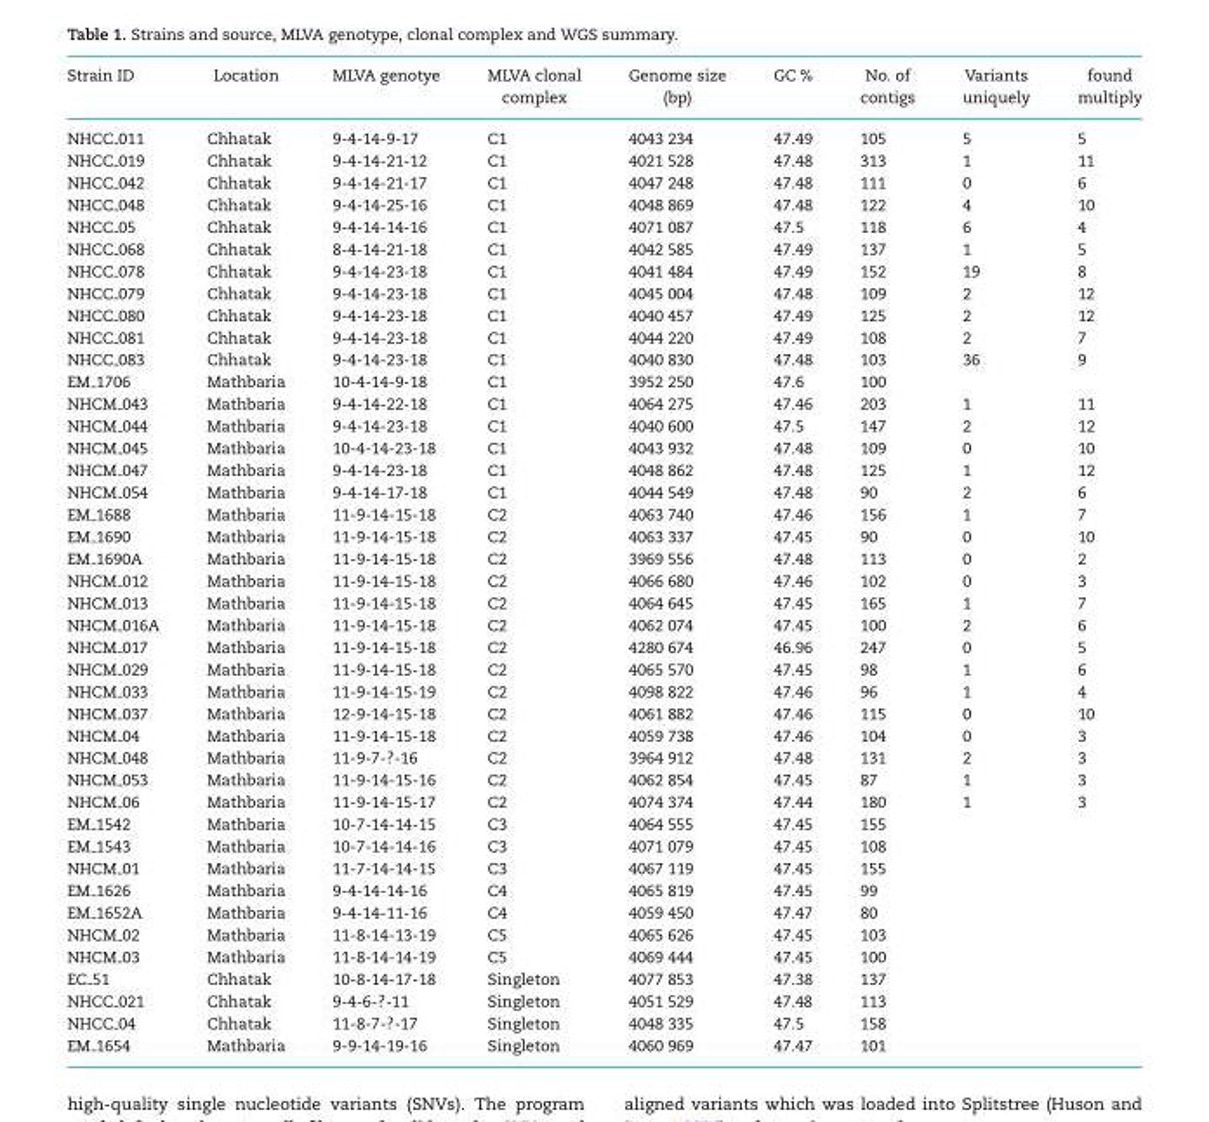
<table><thead><tr><td rowspan="2">Strain ID</td><td rowspan="2">Location</td><td rowspan="2">MLVA genotye</td><td rowspan="2">MLVA clonal complex</td><td rowspan="2">Genome size (bp)</td><td rowspan="2">GC %</td><td rowspan="2">No. of contigs</td><td rowspan="2">Variants uniquely</td><td rowspan="2">found multiply</td></tr><tr></tr></thead><tbody><tr><td>NHCC 011</td><td>Chhatak</td><td>9-4-14-9-17</td><td>C1</td><td>4043 234</td><td>47.49</td><td>105</td><td>5</td><td>5</td></tr><tr><td>NHCC 019</td><td>Chhatak</td><td>9-4-14-21-12</td><td>C1</td><td>4021 528</td><td>47.48</td><td>313</td><td>1</td><td>11</td></tr><tr><td>NHCC 042</td><td>Chhatak</td><td>9-4-14-21-17</td><td>C1</td><td>4047 248</td><td>47.48</td><td>111</td><td>0</td><td>6</td></tr><tr><td>NHCC 048</td><td>Chhatak</td><td>9-4-14-25-16</td><td>C1</td><td>4048 869</td><td>47.48</td><td>122</td><td>4</td><td>10</td></tr><tr><td>NHCC 05</td><td>Chhatak</td><td>9-4-14-14-16</td><td>C1</td><td>4071 087</td><td>47.5</td><td>118</td><td>6</td><td>4</td></tr><tr><td>NHCC 068</td><td>Chhatak</td><td>8-4-14-21-18</td><td>C1</td><td>4042 585</td><td>47.49</td><td>137</td><td>1</td><td>5</td></tr><tr><td>NHCC 078</td><td>Chhatak</td><td>9-4-14-23-18</td><td>C1</td><td>4041 484</td><td>47.49</td><td>152</td><td>19</td><td>8</td></tr><tr><td>NHCC 079</td><td>Chhatak</td><td>9-4-14-23-18</td><td>C1</td><td>4045 004</td><td>47.48</td><td>109</td><td>2</td><td>12</td></tr><tr><td>NHCC 080</td><td>Chhatak</td><td>9-4-14-23-18</td><td>C1</td><td>4040 457</td><td>47.49</td><td>125</td><td>2</td><td>12</td></tr><tr><td>NHCC 081</td><td>Chhatak</td><td>9-4-14-23-18</td><td>C1</td><td>4044 220</td><td>47.49</td><td>108</td><td>2</td><td>7</td></tr><tr><td>NHCC 083</td><td>Chhatak</td><td>9-4-14-23-18</td><td>C1</td><td>4040 830</td><td>47.48</td><td>103</td><td>36</td><td>9</td></tr><tr><td>EM 1706</td><td>Mathbaria</td><td>10-4-14-9-18</td><td>C1</td><td>3952 250</td><td>47.6</td><td>100</td><td></td><td></td></tr><tr><td>NHCM 043</td><td>Mathbaria</td><td>9-4-14-22-18</td><td>C1</td><td>4064 275</td><td>47.46</td><td>203</td><td>1</td><td>11</td></tr><tr><td>NHCM 044</td><td>Mathbaria</td><td>9-4-14-23-18</td><td>C1</td><td>4040 600</td><td>47.5</td><td>147</td><td>2</td><td>12</td></tr><tr><td>NHCM 045</td><td>Mathbaria</td><td>10-4-14-23-18</td><td>C1</td><td>4043 932</td><td>47.48</td><td>109</td><td>0</td><td>10</td></tr><tr><td>NHCM 047</td><td>Mathbaria</td><td>9-4-14-23-18</td><td>C1</td><td>4048 862</td><td>47.48</td><td>125</td><td>1</td><td>12</td></tr><tr><td>NHCM 054</td><td>Mathbaria</td><td>9-4-14-17-18</td><td>C1</td><td>4044 549</td><td>47.48</td><td>90</td><td>2</td><td>6</td></tr><tr><td>EM 1688</td><td>Mathbaria</td><td>11-9-14-15-18</td><td>C2</td><td>4063 740</td><td>47.46</td><td>156</td><td>1</td><td>7</td></tr><tr><td>EM 1690</td><td>Mathbaria</td><td>11-9-14-15-18</td><td>C2</td><td>4063 337</td><td>47.45</td><td>90</td><td>0</td><td>10</td></tr><tr><td>EM 1690A</td><td>Mathbaria</td><td>11-9-14-15-18</td><td>C2</td><td>3969 556</td><td>47.48</td><td>113</td><td>0</td><td>2</td></tr><tr><td>NHCM 012</td><td>Mathbaria</td><td>11-9-14-15-18</td><td>C2</td><td>4066 680</td><td>47.46</td><td>102</td><td>0</td><td>3</td></tr><tr><td>NHCM 013</td><td>Mathbaria</td><td>11-9-14-15-18</td><td>C2</td><td>4064 645</td><td>47.45</td><td>165</td><td>1</td><td>7</td></tr><tr><td>NHCM 016A</td><td>Mathbaria</td><td>11-9-14-15-18</td><td>C2</td><td>4062 074</td><td>47.45</td><td>100</td><td>2</td><td>6</td></tr><tr><td>NHCM 017</td><td>Mathbaria</td><td>11-9-14-15-18</td><td>C2</td><td>4280 674</td><td>46.96</td><td>247</td><td>0</td><td>5</td></tr><tr><td>NHCM 029</td><td>Mathbaria</td><td>11-9-14-15-18</td><td>C2</td><td>4065 570</td><td>47.45</td><td>98</td><td>1</td><td>6</td></tr><tr><td>NHCM 033</td><td>Mathbaria</td><td>11-9-14-15-19</td><td>C2</td><td>4098 822</td><td>47.46</td><td>96</td><td>1</td><td>4</td></tr><tr><td>NHCM 037</td><td>Mathbaria</td><td>12-9-14-15-18</td><td>C2</td><td>4061 882</td><td>47.46</td><td>115</td><td>0</td><td>10</td></tr><tr><td>NHCM 04</td><td>Mathbaria</td><td>11-9-14-15-18</td><td>C2</td><td>4059 738</td><td>47.46</td><td>104</td><td>0</td><td>3</td></tr><tr><td>NHCM 048</td><td>Mathbaria</td><td>11-9-7-?-16</td><td>C2</td><td>3964 912</td><td>47.48</td><td>131</td><td>2</td><td>3</td></tr><tr><td>NHCM 053</td><td>Mathbaria</td><td>11-9-14-15-16</td><td>C2</td><td>4062 854</td><td>47.45</td><td>87</td><td>1</td><td>3</td></tr><tr><td>NHCM 06</td><td>Mathbaria</td><td>11-9-14-15-17</td><td>C2</td><td>4074 374</td><td>47.44</td><td>180</td><td>1</td><td>3</td></tr><tr><td>EM 1542</td><td>Mathbaria</td><td>10-7-14-14-15</td><td>C3</td><td>4064 555</td><td>47.45</td><td>155</td><td></td><td></td></tr><tr><td>EM 1543</td><td>Mathbaria</td><td>10-7-14-14-16</td><td>C3</td><td>4071 079</td><td>47.45</td><td>108</td><td></td><td></td></tr><tr><td>NHCM 01</td><td>Mathbaria</td><td>11-7-14-14-15</td><td>C3</td><td>4067 119</td><td>47.45</td><td>155</td><td></td><td></td></tr><tr><td>EM 1626</td><td>Mathbaria</td><td>9-4-14-14-16</td><td>C4</td><td>4065 819</td><td>47.45</td><td>99</td><td></td><td></td></tr><tr><td>EM 1652A</td><td>Mathbaria</td><td>9-4-14-11-16</td><td>C4</td><td>4059 450</td><td>47.47</td><td>80</td><td></td><td></td></tr><tr><td>NHCM 02</td><td>Mathbaria</td><td>11-8-14-13-19</td><td>C5</td><td>4065 626</td><td>47.45</td><td>103</td><td></td><td></td></tr><tr><td>NHCM 03</td><td>Mathbaria</td><td>11-8-14-14-19</td><td>C5</td><td>4069 444</td><td>47.45</td><td>100</td><td></td><td></td></tr><tr><td>EC 51</td><td>Chhatak</td><td>10-8-14-17-18</td><td>Singleton</td><td>4077 853</td><td>47.38</td><td>137</td><td></td><td></td></tr><tr><td>NHCC 021</td><td>Chhatak</td><td>9-4-6-?-11</td><td>Singleton</td><td>4051 529</td><td>47.48</td><td>113</td><td></td><td></td></tr><tr><td>NHCC 04</td><td>Chhatak</td><td>11-8-7-?-17</td><td>Singleton</td><td>4048 335</td><td>47.5</td><td>158</td><td></td><td></td></tr><tr><td>EM 1654</td><td>Mathbaria</td><td>9-9-14-19-16</td><td>Singleton</td><td>4060 969</td><td>47.47</td><td>101</td><td></td><td></td></tr></tbody></table>